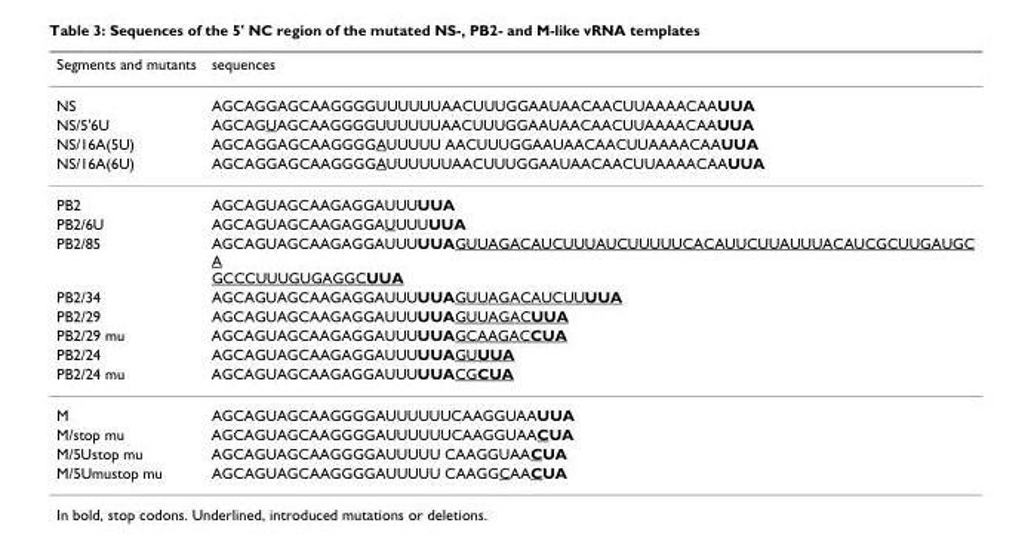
<table><thead><tr><td>Segments and mutants</td><td>sequences</td></tr></thead><tbody><tr><td>NS</td><td>AGCAGGAGCAAGGGGUUUUUUAACUUUGGAAUAACAACUUAAAACAAUUA</td></tr><tr><td>NS/5&#x27;6U</td><td>AGCAGUAGCAAGGGGUUUUUUAACUUUGGAAUAACAACUUAAAACAAUUA</td></tr><tr><td>NS/16A(5U)</td><td>AGCAGGAGCAAGGGGAUUUUU AACUUUGGAAUAACAACUUAAAACAAUUA</td></tr><tr><td>NS/16A(6U)</td><td>AGCAGGAGCAAGGGGAUUUUUUAACUUUGGAAUAACAACUUAAAACAAUUA</td></tr><tr><td>PB2</td><td>AGCAGUAGCAAGAGGAUUUUUA</td></tr><tr><td>PB2/6U</td><td>AGCAGUAGCAAGAGGAUUUUUUA</td></tr><tr><td>PB2/85</td><td>AGCAGUAGCAAGAGGAUUUUUAGUUAGACAUCUUUAUCUUUUUCACAUUCUUAUUUACAUCGCUUGAUGC A GCCCUUUGUGAGGCUUA</td></tr><tr><td>PB2/34</td><td>AGCAGUAGCAAGAGGAUUUUUAGUUAGACAUCUUUUA</td></tr><tr><td>PB2/29</td><td>AGCAGUAGCAAGAGGAUUUUUAGUUAGACUUA</td></tr><tr><td>PB2/29 mu</td><td>AGCAGUAGCAAGAGGAUUUUUAGCAAGACCUA</td></tr><tr><td>PB2/24</td><td>AGCAGUAGCAAGAGGAUUUUUAGUUUA</td></tr><tr><td>PB2/24 mu</td><td>AGCAGUAGCAAGAGGAUUUUUACGCUA</td></tr><tr><td>M</td><td>AGCAGUAGCAAGGGGAUUUUUUCAAGGUAAUUA</td></tr><tr><td>M/stop mu</td><td>AGCAGUAGCAAGGGGAUUUUUUCAAGGUAACUA</td></tr><tr><td>M/5Ustop mu</td><td>AGCAGUAGCAAGGGGAUUUUU CAAGGUAACUA</td></tr><tr><td>M/5Umustop mu</td><td>AGCAGUAGCAAGGGGAUUUUU CAAGGCAACUA</td></tr></tbody></table>